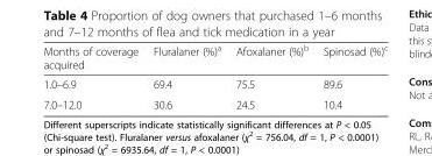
<table><thead><tr><td>Months of coverage acquired</td><td>Fluralaner (%)<sup>a</sup></td><td>Afoxalaner (%)<sup>b</sup></td><td>Spinosad (%)<sup>c</sup></td></tr></thead><tbody><tr><td>1.0–6.9</td><td>69.4</td><td>75.5</td><td>89.6</td></tr><tr><td>7.0–12.0</td><td>30.6</td><td>24.5</td><td>10.4</td></tr></tbody></table>